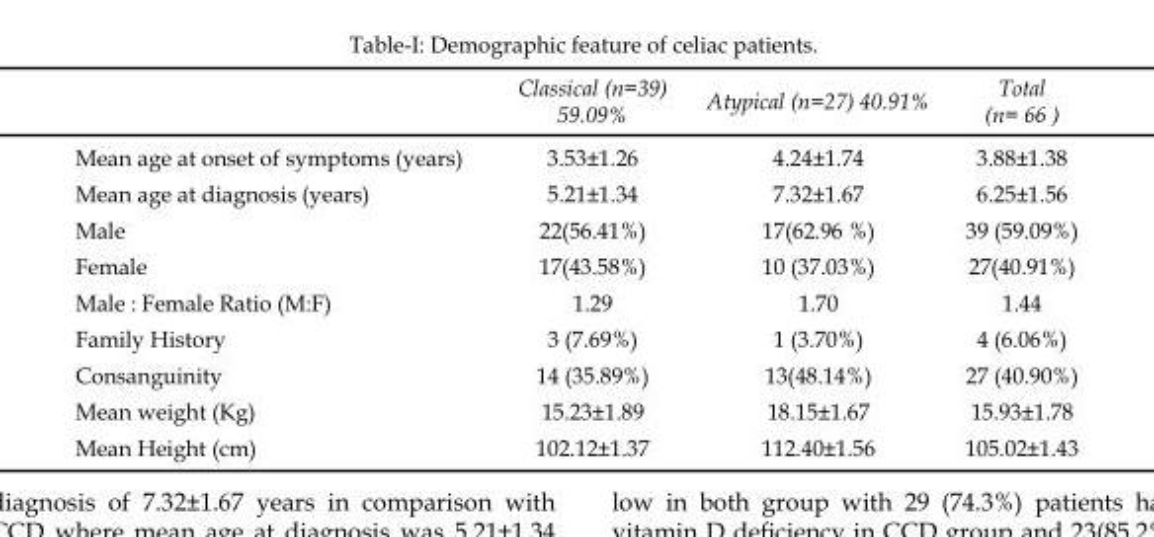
<table><thead><tr><td></td><td>Classical (n=39) 59.09%</td><td>Atypical (n=27) 40.91%</td><td>Total (n= 66 )</td></tr></thead><tbody><tr><td>Mean age at onset of symptoms (years)</td><td>3.53±1.26</td><td>4.24±1.74</td><td>3.88±1.38</td></tr><tr><td>Mean age at diagnosis (years)</td><td>5.21±1.34</td><td>7.32±1.67</td><td>6.25±1.56</td></tr><tr><td>Male</td><td>22(56.41%)</td><td>17(62.96 %)</td><td>39 (59.09%)</td></tr><tr><td>Female</td><td>17(43.58%)</td><td>10 (37.03%)</td><td>27(40.91%)</td></tr><tr><td>Male : Female Ratio (M:F)</td><td>1.29</td><td>1.70</td><td>1.44</td></tr><tr><td>Family History</td><td>3 (7.69%)</td><td>1 (3.70%)</td><td>4 (6.06%)</td></tr><tr><td>Consanguinity</td><td>14 (35.89%)</td><td>13(48.14%)</td><td>27 (40.90%)</td></tr><tr><td>Mean weight (Kg)</td><td>15.23±1.89</td><td>18.15±1.67</td><td>15.93±1.78</td></tr><tr><td>Mean Height (cm)</td><td>102.12±1.37</td><td>112.40±1.56</td><td>105.02±1.43</td></tr></tbody></table>